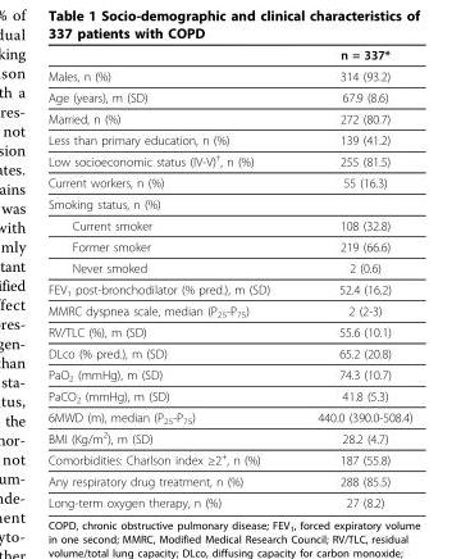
<table><thead><tr><td></td><td>n = 337*</td></tr></thead><tbody><tr><td>Males, n (%)</td><td>314 (93.2)</td></tr><tr><td>Age (years), m (SD)</td><td>67.9 (8.6)</td></tr><tr><td>Married, n (%)</td><td>272 (80.7)</td></tr><tr><td>Less than primary education, n (%)</td><td>139 (41.2)</td></tr><tr><td>Low socioeconomic status (IV-V)<sup>†</sup>, n (%)</td><td>255 (81.5)</td></tr><tr><td>Current workers, n (%)</td><td>55 (16.3)</td></tr><tr><td colspan="2">Smoking status, n (%)</td></tr><tr><td>Current smoker</td><td>108 (32.8)</td></tr><tr><td>Former smoker</td><td>219 (66.6)</td></tr><tr><td>Never smoked</td><td>2 (0.6)</td></tr><tr><td>FEV<sub>1</sub> post-bronchodilator (% pred.), m (SD)</td><td>52.4 (16.2)</td></tr><tr><td>MMRC dyspnea scale, median (P<sub>25</sub>-P<sub>75</sub>)</td><td>2 (2-3)</td></tr><tr><td>RV/TLC (%), m (SD)</td><td>55.6 (10.1)</td></tr><tr><td>DLco (% pred.), m (SD)</td><td>65.2 (20.8)</td></tr><tr><td>PaO<sub>2</sub> (mmHg), m (SD)</td><td>74.3 (10.7)</td></tr><tr><td>PaCO<sub>2</sub> (mmHg), m (SD)</td><td>41.8 (5.3)</td></tr><tr><td>6MWD (m), median (P<sub>25</sub>-P<sub>75</sub>)</td><td>440.0 (390.0-508.4)</td></tr><tr><td>BMI (Kg/m<sup>2</sup>), m (SD)</td><td>28.2 (4.7)</td></tr><tr><td>Comorbidities: Charlson index ≥2<sup>+</sup>, n (%)</td><td>187 (55.8)</td></tr><tr><td>Any respiratory drug treatment, n (%)</td><td>288 (85.5)</td></tr><tr><td>Long-term oxygen therapy, n (%)</td><td>27 (8.2)</td></tr></tbody></table>